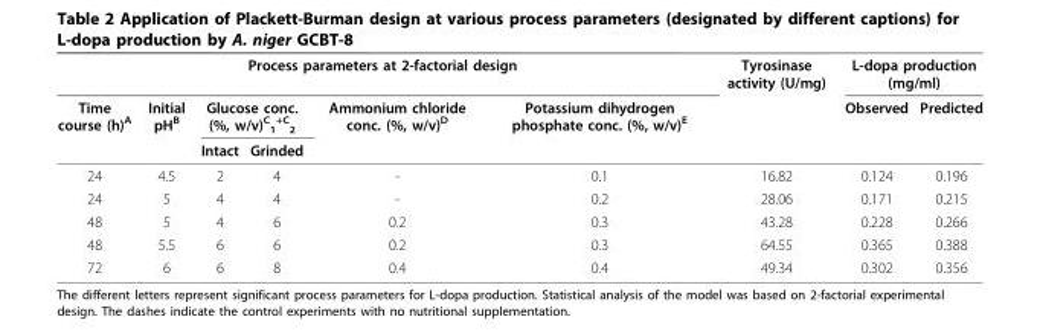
<table><thead><tr><td colspan="6">Process parameters at 2-factorial design</td><td rowspan="3">Tyrosinase activity (U/mg)</td><td colspan="2">L-dopa production (mg/ml)</td></tr><tr><td rowspan="2">Time course (h)<sup>A</sup></td><td rowspan="2">Initial pH<sup>B</sup></td><td colspan="2">Glucose conc. (%, w/v)<sup>C</sup> <sub>1</sub> <sup>+C</sup> <sub>2</sub></td><td rowspan="2">Ammonium chloride conc. (%, w/v)<sup>D</sup></td><td rowspan="2">Potassium dihydrogen phosphate conc. (%, w/v)<sup>E</sup></td><td rowspan="2">Observed</td><td rowspan="2">Predicted</td></tr><tr><td>Intact</td><td>Grinded</td></tr></thead><tbody><tr><td>24</td><td>4.5</td><td>2</td><td>4</td><td>-</td><td>0.1</td><td>16.82</td><td>0.124</td><td>0.196</td></tr><tr><td>24</td><td>5</td><td>4</td><td>4</td><td>-</td><td>0.2</td><td>28.06</td><td>0.171</td><td>0.215</td></tr><tr><td>48</td><td>5</td><td>4</td><td>6</td><td>0.2</td><td>0.3</td><td>43.28</td><td>0.228</td><td>0.266</td></tr><tr><td>48</td><td>5.5</td><td>6</td><td>6</td><td>0.2</td><td>0.3</td><td>64.55</td><td>0.365</td><td>0.388</td></tr><tr><td>72</td><td>6</td><td>6</td><td>8</td><td>0.4</td><td>0.4</td><td>49.34</td><td>0.302</td><td>0.356</td></tr></tbody></table>